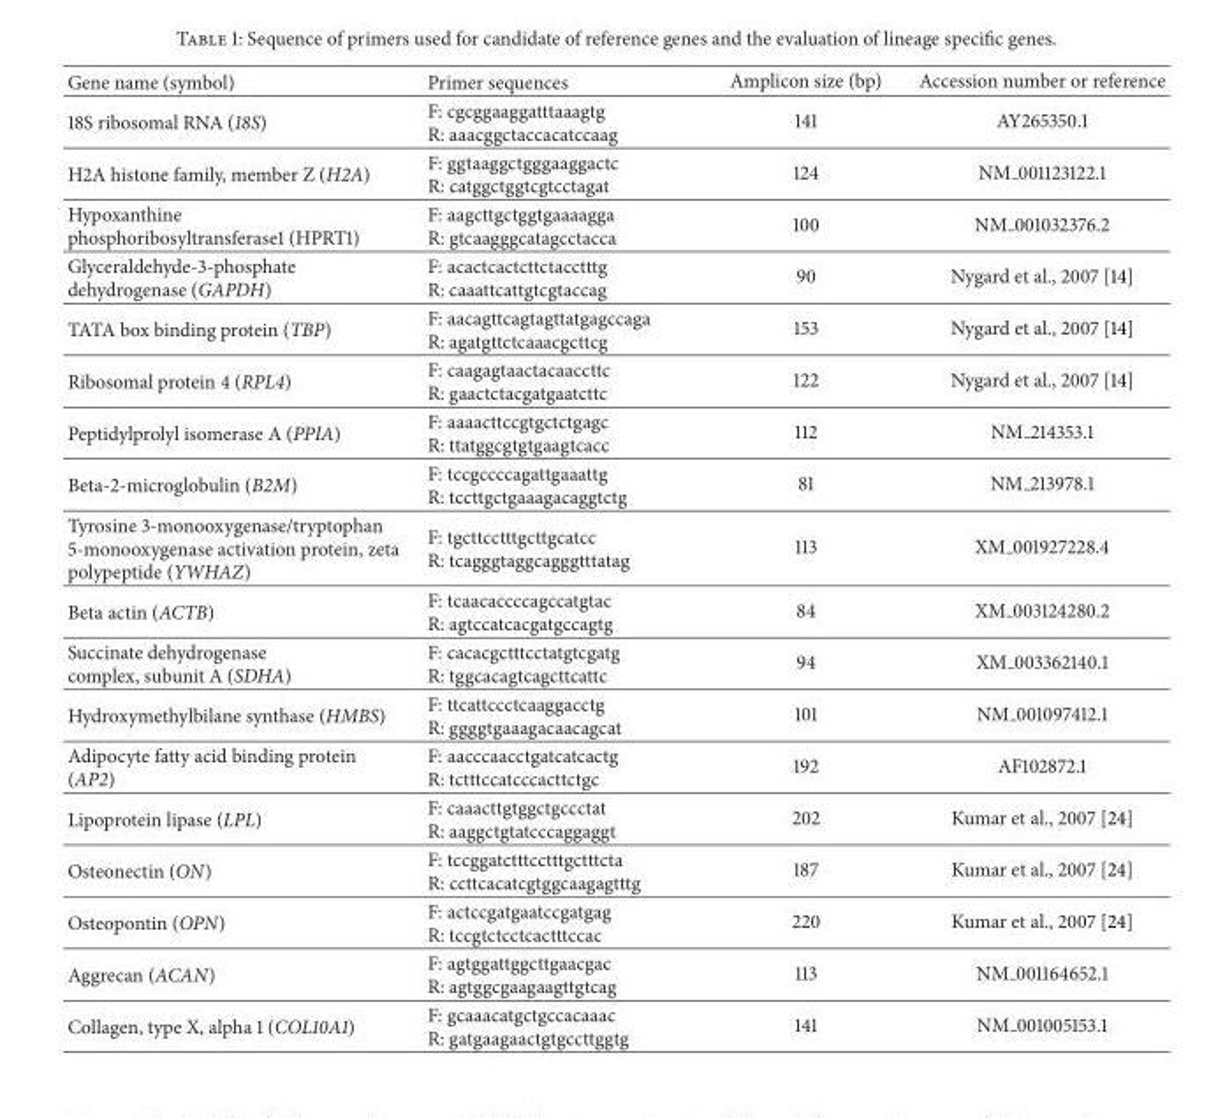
<table><thead><tr><td>Gene name (symbol)</td><td>Primer sequences</td><td>Amplicon size (bp)</td><td>Accession number or reference</td></tr></thead><tbody><tr><td>18S ribosomal RNA (18S)</td><td>F: cgcggaaggatttaaagtg R: aaacggctaccacatccaag</td><td>141</td><td>AY265350.1</td></tr><tr><td>H2A histone family, member Z (H2A)</td><td>F: ggtaaggctgggaaggactc R: catggctggtcgtcctagat</td><td>124</td><td>NM 001123122.1</td></tr><tr><td>Hypoxanthine phosphoribosyltransferase1 (HPRT1)</td><td>F: aagcttgctggtgaaaagga R: gtcaagggcatagcctacca</td><td>100</td><td>NM 001032376.2</td></tr><tr><td>Glyceraldehyde-3-phosphate dehydrogenase (GAPDH)</td><td>F: acactcactcttctacctttg R: caaattcattgtcgtaccag</td><td>90</td><td>Nygard et al., 2007 [14]</td></tr><tr><td>TATA box binding protein (TBP)</td><td>F: aacagttcagtagttatgagccaga R: agatgttctcaaacgcttcg</td><td>153</td><td>Nygard et al., 2007 [14]</td></tr><tr><td>Ribosomal protein 4 (RPL4)</td><td>F: caagagtaactacaaccttc R: gaactctacgatgaatcttc</td><td>122</td><td>Nygard et al., 2007 [14]</td></tr><tr><td>Peptidylprolyl isomerase A (PPIA)</td><td>F: aaaacttccgtgctctgagc R: ttatggcgtgtgaagtcacc</td><td>112</td><td>NM 214353.1</td></tr><tr><td>Beta-2-microglobulin (B2M)</td><td>F: tccgccccagattgaaattg R: tccttgctgaaagacaggtctg</td><td>81</td><td>NM 213978.1</td></tr><tr><td>Tyrosine 3-monooxygenase/tryptophan 5-monooxygenase activation protein, zeta polypeptide (YWHAZ)</td><td>F: tgcttcctttgcttgcatcc R: tcagggtaggcagggtttatag</td><td>113</td><td>XM 001927228.4</td></tr><tr><td>Beta actin (ACTB)</td><td>F: tcaacaccccagccatgtac R: agtccatcacgatgccagtg</td><td>84</td><td>XM 003124280.2</td></tr><tr><td>Succinate dehydrogenase complex, subunit A (SDHA)</td><td>F: cacacgctttcctatgtcgatg R: tggcacagtcagcttcattc</td><td>94</td><td>XM 003362140.1</td></tr><tr><td>Hydroxymethylbilane synthase (HMBS)</td><td>F: ttcattccctcaaggacctg R: ggggtgaaagacaacagcat</td><td>101</td><td>NM 001097412.1</td></tr><tr><td>Adipocyte fatty acid binding protein (AP2)</td><td>F: aacccaacctgatcatcactg R: tctttccatcccacttctgc</td><td>192</td><td>AF102872.1</td></tr><tr><td>Lipoprotein lipase (LPL)</td><td>F: caaacttgtggctgccctat R: aaggctgtatcccaggaggt</td><td>202</td><td>Kumar et al., 2007 [24]</td></tr><tr><td>Osteonectin (ON)</td><td>F: tccggatctttcctttgctttcta R: ccttcacatcgtggcaagagtttg</td><td>187</td><td>Kumar et al., 2007 [24]</td></tr><tr><td>Osteopontin (OPN)</td><td>F: actccgatgaatccgatgag R: tccgtctcctcactttccac</td><td>220</td><td>Kumar et al., 2007 [24]</td></tr><tr><td>Aggrecan (ACAN)</td><td>F: agtggattggcttgaacgac R: agtggcgaagaagttgtcag</td><td>113</td><td>NM 001164652.1</td></tr><tr><td>Collagen, type X, alpha 1 (COL10A1)</td><td>F: gcaaacatgctgccacaaac R: gatgaagaactgtgccttggtg</td><td>141</td><td>NM 001005153.1</td></tr></tbody></table>